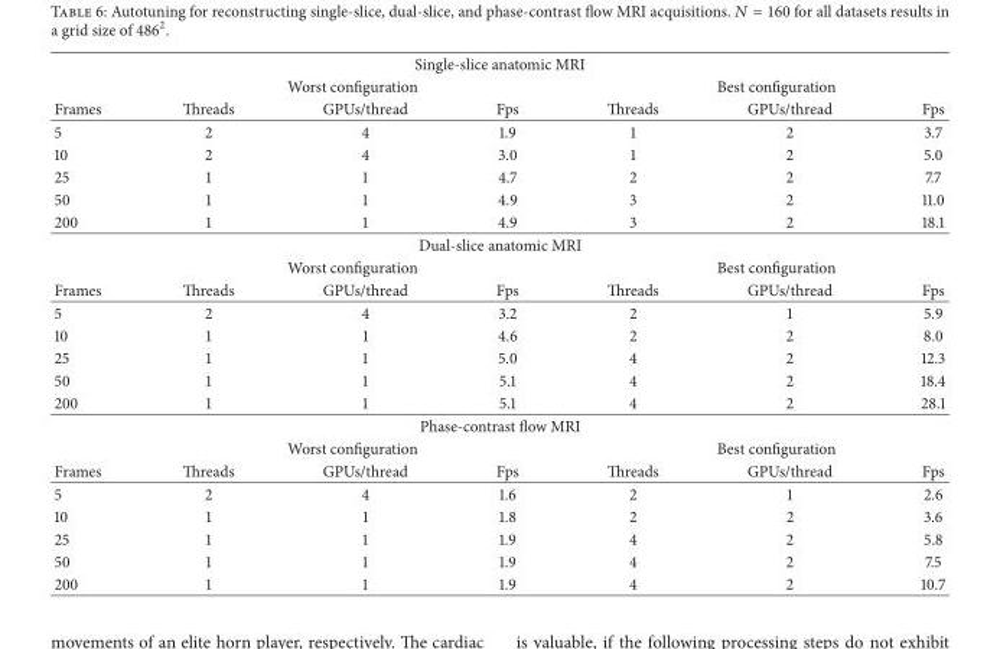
<table><thead><tr><td colspan="7">Single-slice anatomic MRI</td></tr><tr><td rowspan="2">Frames</td><td colspan="3">Worst configuration</td><td colspan="3">Best configuration</td></tr><tr><td>Threads</td><td>GPUs/thread</td><td>Fps</td><td>Threads</td><td>GPUs/thread</td><td>Fps</td></tr></thead><tbody><tr><td>5</td><td>2</td><td>4</td><td>1.9</td><td>1</td><td>2</td><td>3.7</td></tr><tr><td>10</td><td>2</td><td>4</td><td>3.0</td><td>1</td><td>2</td><td>5.0</td></tr><tr><td>25</td><td>1</td><td>1</td><td>4.7</td><td>2</td><td>2</td><td>7.7</td></tr><tr><td>50</td><td>1</td><td>1</td><td>4.9</td><td>3</td><td>2</td><td>11.0</td></tr><tr><td>200</td><td>1</td><td>1</td><td>4.9</td><td>3</td><td>2</td><td>18.1</td></tr><tr><td colspan="7">Dual-slice anatomic MRI</td></tr><tr><td></td><td colspan="3">Worst configuration</td><td colspan="3">Best configuration</td></tr><tr><td>Frames</td><td>Threads</td><td>GPUs/thread</td><td>Fps</td><td>Threads</td><td>GPUs/thread</td><td>Fps</td></tr><tr><td>5</td><td>2</td><td>4</td><td>3.2</td><td>2</td><td>1</td><td>5.9</td></tr><tr><td>10</td><td>1</td><td>1</td><td>4.6</td><td>2</td><td>2</td><td>8.0</td></tr><tr><td>25</td><td>1</td><td>1</td><td>5.0</td><td>4</td><td>2</td><td>12.3</td></tr><tr><td>50</td><td>1</td><td>1</td><td>5.1</td><td>4</td><td>2</td><td>18.4</td></tr><tr><td>200</td><td>1</td><td>1</td><td>5.1</td><td>4</td><td>2</td><td>28.1</td></tr><tr><td colspan="7">Phase-contrast flow MRI</td></tr><tr><td></td><td colspan="3">Worst configuration</td><td colspan="3">Best configuration</td></tr><tr><td>Frames</td><td>Threads</td><td>GPUs/thread</td><td>Fps</td><td>Threads</td><td>GPUs/thread</td><td>Fps</td></tr><tr><td>5</td><td>2</td><td>4</td><td>1.6</td><td>2</td><td>1</td><td>2.6</td></tr><tr><td>10</td><td>1</td><td>1</td><td>1.8</td><td>2</td><td>2</td><td>3.6</td></tr><tr><td>25</td><td>1</td><td>1</td><td>1.9</td><td>4</td><td>2</td><td>5.8</td></tr><tr><td>50</td><td>1</td><td>1</td><td>1.9</td><td>4</td><td>2</td><td>7.5</td></tr><tr><td>200</td><td>1</td><td>1</td><td>1.9</td><td>4</td><td>2</td><td>10.7</td></tr></tbody></table>